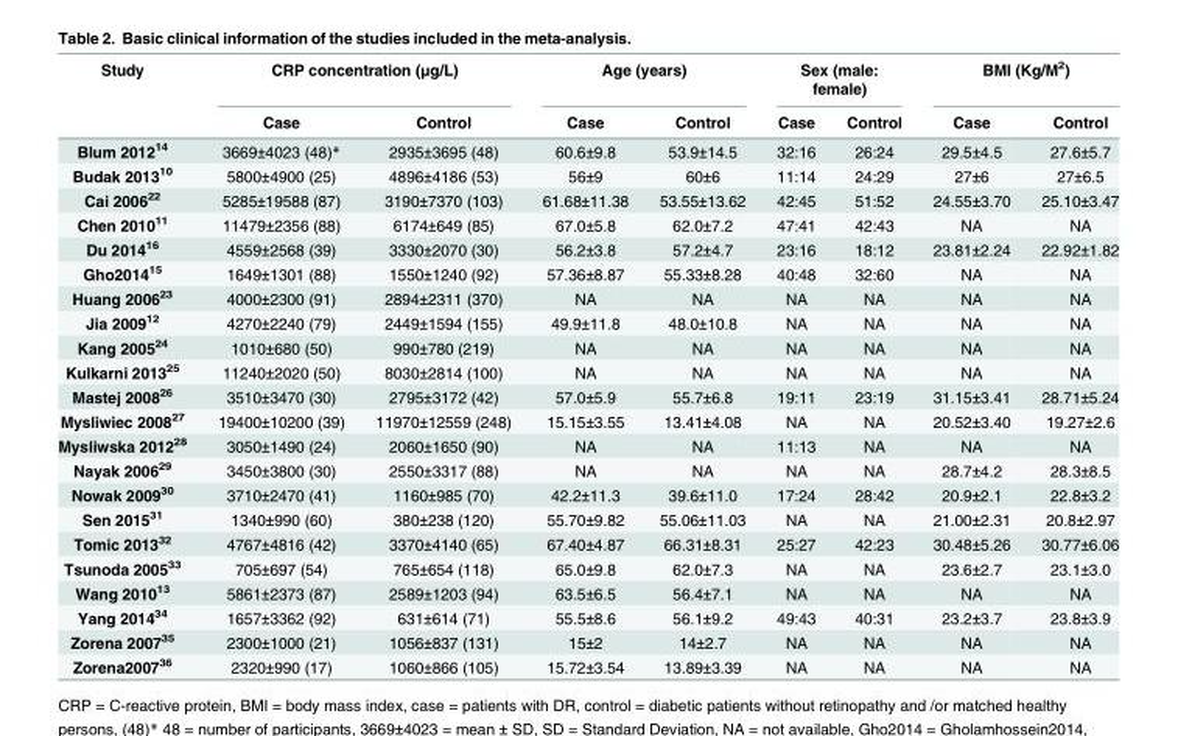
<table><thead><tr><td rowspan="2">Study</td><td colspan="2">CRP concentration (μg/L)</td><td colspan="2">Age (years)</td><td colspan="2">Sex (male: female)</td><td colspan="2">BMI (Kg/M<sup>2</sup>)</td></tr><tr><td>Case</td><td>Control</td><td>Case</td><td>Control</td><td>Case</td><td>Control</td><td>Case</td><td>Control</td></tr></thead><tbody><tr><td>Blum 2012<sup>14</sup></td><td>3669±4023 (48)*</td><td>2935±3695 (48)</td><td>60.6±9.8</td><td>53.9±14.5</td><td>32:16</td><td>26:24</td><td>29.5±4.5</td><td>27.6±5.7</td></tr><tr><td>Budak 2013<sup>10</sup></td><td>5800±4900 (25)</td><td>4896±4186 (53)</td><td>56±9</td><td>60±6</td><td>11:14</td><td>24:29</td><td>27±6</td><td>27±6.5</td></tr><tr><td>Cai 2006<sup>22</sup></td><td>5285±19588 (87)</td><td>3190±7370 (103)</td><td>61.68±11.38</td><td>53.55±13.62</td><td>42:45</td><td>51:52</td><td>24.55±3.70</td><td>25.10±3.47</td></tr><tr><td>Chen 2010<sup>11</sup></td><td>11479±2356 (88)</td><td>6174±649 (85)</td><td>67.0±5.8</td><td>62.0±7.2</td><td>47:41</td><td>42:43</td><td>NA</td><td>NA</td></tr><tr><td>Du 2014<sup>16</sup></td><td>4559±2568 (39)</td><td>3330±2070 (30)</td><td>56.2±3.8</td><td>57.2±4.7</td><td>23:16</td><td>18:12</td><td>23.81±2.24</td><td>22.92±1.82</td></tr><tr><td>Gho2014<sup>15</sup></td><td>1649±1301 (88)</td><td>1550±1240 (92)</td><td>57.36±8.87</td><td>55.33±8.28</td><td>40:48</td><td>32:60</td><td>NA</td><td>NA</td></tr><tr><td>Huang 2006<sup>23</sup></td><td>4000±2300 (91)</td><td>2894±2311 (370)</td><td>NA</td><td>NA</td><td>NA</td><td>NA</td><td>NA</td><td>NA</td></tr><tr><td>Jia 2009<sup>12</sup></td><td>4270±2240 (79)</td><td>2449±1594 (155)</td><td>49.9±11.8</td><td>48.0±10.8</td><td>NA</td><td>NA</td><td>NA</td><td>NA</td></tr><tr><td>Kang 2005<sup>24</sup></td><td>1010±680 (50)</td><td>990±780 (219)</td><td>NA</td><td>NA</td><td>NA</td><td>NA</td><td>NA</td><td>NA</td></tr><tr><td>Kulkarni 2013<sup>25</sup></td><td>11240±2020 (50)</td><td>8030±2814 (100)</td><td>NA</td><td>NA</td><td>NA</td><td>NA</td><td>NA</td><td>NA</td></tr><tr><td>Mastej 2008<sup>26</sup></td><td>3510±3470 (30)</td><td>2795±3172 (42)</td><td>57.0±5.9</td><td>55.7±6.8</td><td>19:11</td><td>23:19</td><td>31.15±3.41</td><td>28.71±5.24</td></tr><tr><td>Mysliwiec 2008<sup>27</sup></td><td>19400±10200 (39)</td><td>11970±12559 (248)</td><td>15.15±3.55</td><td>13.41±4.08</td><td>NA</td><td>NA</td><td>20.52±3.40</td><td>19.27±2.6</td></tr><tr><td>Mysliwska 2012<sup>28</sup></td><td>3050±1490 (24)</td><td>2060±1650 (90)</td><td>NA</td><td>NA</td><td>11:13</td><td>NA</td><td>NA</td><td>NA</td></tr><tr><td>Nayak 2006<sup>29</sup></td><td>3450±3800 (30)</td><td>2550±3317 (88)</td><td>NA</td><td>NA</td><td>NA</td><td>NA</td><td>28.7±4.2</td><td>28.3±8.5</td></tr><tr><td>Nowak 2009<sup>30</sup></td><td>3710±2470 (41)</td><td>1160±985 (70)</td><td>42.2±11.3</td><td>39.6±11.0</td><td>17:24</td><td>28:42</td><td>20.9±2.1</td><td>22.8±3.2</td></tr><tr><td>Sen 2015<sup>31</sup></td><td>1340±990 (60)</td><td>380±238 (120)</td><td>55.70±9.82</td><td>55.06±11.03</td><td>NA</td><td>NA</td><td>21.00±2.31</td><td>20.8±2.97</td></tr><tr><td>Tomic 2013<sup>32</sup></td><td>4767±4816 (42)</td><td>3370±4140 (65)</td><td>67.40±4.87</td><td>66.31±8.31</td><td>25:27</td><td>42:23</td><td>30.48±5.26</td><td>30.77±6.06</td></tr><tr><td>Tsunoda 2005<sup>33</sup></td><td>705±697 (54)</td><td>765±654 (118)</td><td>65.0±9.8</td><td>62.0±7.3</td><td>NA</td><td>NA</td><td>23.6±2.7</td><td>23.1±3.0</td></tr><tr><td>Wang 2010<sup>13</sup></td><td>5861±2373 (87)</td><td>2589±1203 (94)</td><td>63.5±6.5</td><td>56.4±7.1</td><td>NA</td><td>NA</td><td>NA</td><td>NA</td></tr><tr><td>Yang 2014<sup>34</sup></td><td>1657±3362 (92)</td><td>631±614 (71)</td><td>55.5±8.6</td><td>56.1±9.2</td><td>49:43</td><td>40:31</td><td>23.2±3.7</td><td>23.8±3.9</td></tr><tr><td>Zorena 2007<sup>35</sup></td><td>2300±1000 (21)</td><td>1056±837 (131)</td><td>15±2</td><td>14±2.7</td><td>NA</td><td>NA</td><td>NA</td><td>NA</td></tr><tr><td>Zorena2007<sup>36</sup></td><td>2320±990 (17)</td><td>1060±866 (105)</td><td>15.72±3.54</td><td>13.89±3.39</td><td>NA</td><td>NA</td><td>NA</td><td>NA</td></tr></tbody></table>